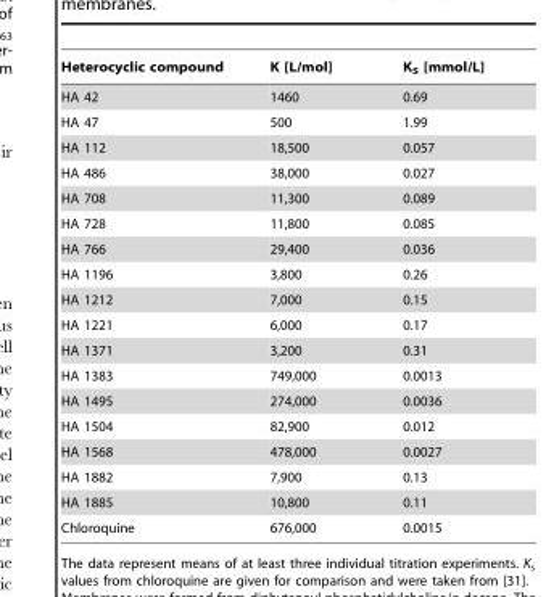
<table><thead><tr><td>Heterocyclic compound</td><td>K [L/mol]</td><td>K<sub>S</sub> [mmol/L]</td></tr></thead><tbody><tr><td>HA 42</td><td>1460</td><td>0.69</td></tr><tr><td>HA 47</td><td>500</td><td>1.99</td></tr><tr><td>HA 112</td><td>18,500</td><td>0.057</td></tr><tr><td>HA 486</td><td>38,000</td><td>0.027</td></tr><tr><td>HA 708</td><td>11,300</td><td>0.089</td></tr><tr><td>HA 728</td><td>11,800</td><td>0.085</td></tr><tr><td>HA 766</td><td>29,400</td><td>0.036</td></tr><tr><td>HA 1196</td><td>3,800</td><td>0.26</td></tr><tr><td>HA 1212</td><td>7,000</td><td>0.15</td></tr><tr><td>HA 1221</td><td>6,000</td><td>0.17</td></tr><tr><td>HA 1371</td><td>3,200</td><td>0.31</td></tr><tr><td>HA 1383</td><td>749,000</td><td>0.0013</td></tr><tr><td>HA 1495</td><td>274,000</td><td>0.0036</td></tr><tr><td>HA 1504</td><td>82,900</td><td>0.012</td></tr><tr><td>HA 1568</td><td>478,000</td><td>0.0027</td></tr><tr><td>HA 1882</td><td>7,900</td><td>0.13</td></tr><tr><td>HA 1885</td><td>10,800</td><td>0.11</td></tr><tr><td>Chloroquine</td><td>676,000</td><td>0.0015</td></tr></tbody></table>